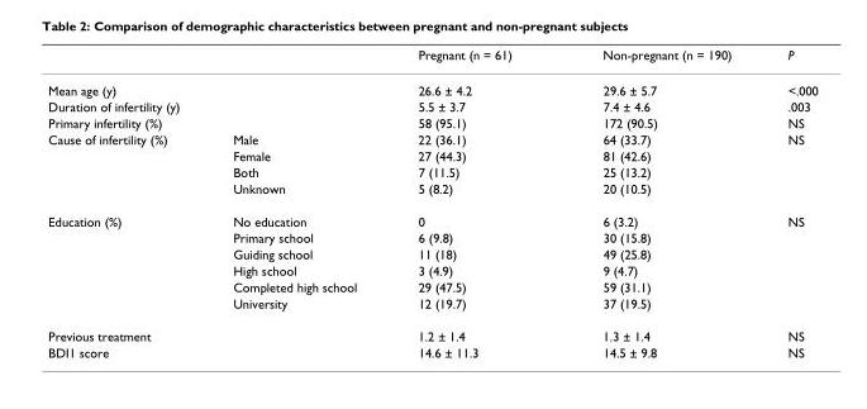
<table><thead><tr><td></td><td></td><td>Pregnant (n = 61)</td><td>Non-pregnant (n = 190)</td><td>P</td></tr></thead><tbody><tr><td>Mean age (y)</td><td></td><td>26.6 ± 4.2</td><td>29.6 ± 5.7</td><td>&lt;.000</td></tr><tr><td>Duration of infertility (y)</td><td></td><td>5.5 ± 3.7</td><td>7.4 ± 4.6</td><td>.003</td></tr><tr><td>Primary infertility (%)</td><td></td><td>58 (95.1)</td><td>172 (90.5)</td><td>NS</td></tr><tr><td rowspan="4">Cause of infertility (%)</td><td>Male</td><td>22 (36.1)</td><td>64 (33.7)</td><td>NS</td></tr><tr><td>Female</td><td>27 (44.3)</td><td>81 (42.6)</td><td></td></tr><tr><td>Both</td><td>7 (11.5)</td><td>25 (13.2)</td><td></td></tr><tr><td>Unknown</td><td>5 (8.2)</td><td>20 (10.5)</td><td></td></tr><tr><td rowspan="6">Education (%)</td><td>No education</td><td>0</td><td>6 (3.2)</td><td>NS</td></tr><tr><td>Primary school</td><td>6 (9.8)</td><td>30 (15.8)</td><td></td></tr><tr><td>Guiding school</td><td>11 (18)</td><td>49 (25.8)</td><td></td></tr><tr><td>High school</td><td>3 (4.9)</td><td>9 (4.7)</td><td></td></tr><tr><td>Completed high school</td><td>29 (47.5)</td><td>59 (31.1)</td><td></td></tr><tr><td>University</td><td>12 (19.7)</td><td>37 (19.5)</td><td></td></tr><tr><td>Previous treatment</td><td></td><td>1.2 ± 1.4</td><td>1.3 ± 1.4</td><td>NS</td></tr><tr><td>BDI1 score</td><td></td><td>14.6 ± 11.3</td><td>14.5 ± 9.8</td><td>NS</td></tr></tbody></table>